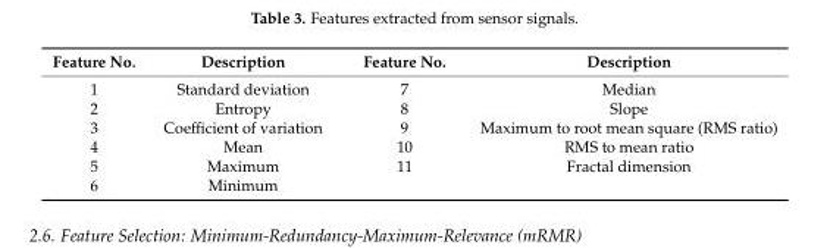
<table><thead><tr><td>Feature No.</td><td>Description</td><td>Feature No.</td><td>Description</td></tr></thead><tbody><tr><td>1</td><td>Standard deviation</td><td>7</td><td>Median</td></tr><tr><td>2</td><td>Entropy</td><td>8</td><td>Slope</td></tr><tr><td>3</td><td>Coefficient of variation</td><td>9</td><td>Maximum to root mean square (RMS ratio)</td></tr><tr><td>4</td><td>Mean</td><td>10</td><td>RMS to mean ratio</td></tr><tr><td>5</td><td>Maximum</td><td>11</td><td>Fractal dimension</td></tr><tr><td>6</td><td>Minimum</td><td></td><td></td></tr></tbody></table>